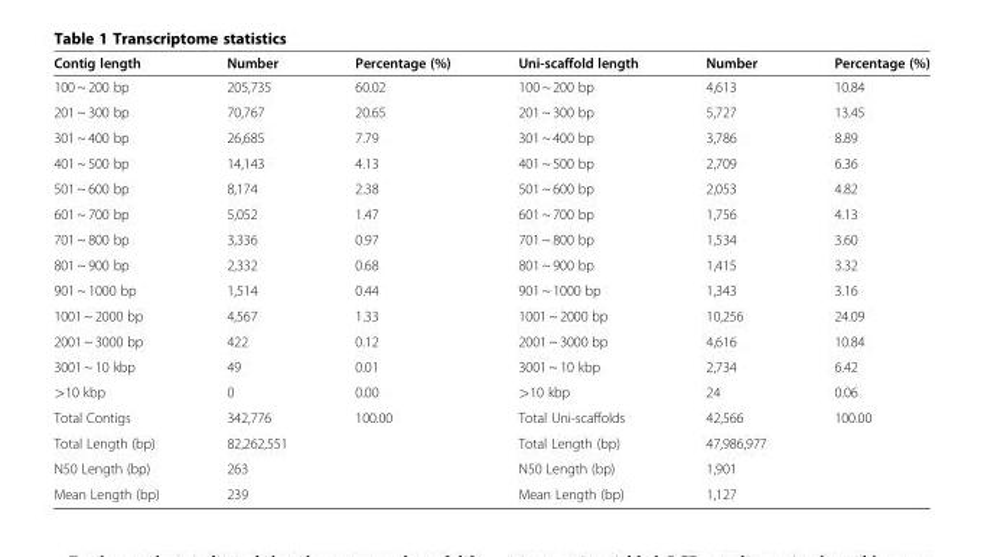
<table><thead><tr><td>Contig length</td><td>Number</td><td>Percentage (%)</td><td>Uni-scaffold length</td><td>Number</td><td>Percentage (%)</td></tr></thead><tbody><tr><td>100 ~ 200 bp</td><td>205,735</td><td>60.02</td><td>100 ~ 200 bp</td><td>4,613</td><td>10.84</td></tr><tr><td>201 ~ 300 bp</td><td>70,767</td><td>20.65</td><td>201 ~ 300 bp</td><td>5,727</td><td>13.45</td></tr><tr><td>301 ~ 400 bp</td><td>26,685</td><td>7.79</td><td>301 ~ 400 bp</td><td>3,786</td><td>8.89</td></tr><tr><td>401 ~ 500 bp</td><td>14,143</td><td>4.13</td><td>401 ~ 500 bp</td><td>2,709</td><td>6.36</td></tr><tr><td>501 ~ 600 bp</td><td>8,174</td><td>2.38</td><td>501 ~ 600 bp</td><td>2,053</td><td>4.82</td></tr><tr><td>601 ~ 700 bp</td><td>5,052</td><td>1.47</td><td>601 ~ 700 bp</td><td>1,756</td><td>4.13</td></tr><tr><td>701 ~ 800 bp</td><td>3,336</td><td>0.97</td><td>701 ~ 800 bp</td><td>1,534</td><td>3.60</td></tr><tr><td>801 ~ 900 bp</td><td>2,332</td><td>0.68</td><td>801 ~ 900 bp</td><td>1,415</td><td>3.32</td></tr><tr><td>901 ~ 1000 bp</td><td>1,514</td><td>0.44</td><td>901 ~ 1000 bp</td><td>1,343</td><td>3.16</td></tr><tr><td>1001 ~ 2000 bp</td><td>4,567</td><td>1.33</td><td>1001 ~ 2000 bp</td><td>10,256</td><td>24.09</td></tr><tr><td>2001 ~ 3000 bp</td><td>422</td><td>0.12</td><td>2001 ~ 3000 bp</td><td>4,616</td><td>10.84</td></tr><tr><td>3001 ~ 10 kbp</td><td>49</td><td>0.01</td><td>3001 ~ 10 kbp</td><td>2,734</td><td>6.42</td></tr><tr><td>&gt;10 kbp</td><td>0</td><td>0.00</td><td>&gt;10 kbp</td><td>24</td><td>0.06</td></tr><tr><td>Total Contigs</td><td>342,776</td><td>100.00</td><td>Total Uni-scaffolds</td><td>42,566</td><td>100.00</td></tr><tr><td>Total Length (bp)</td><td>82,262,551</td><td></td><td>Total Length (bp)</td><td>47,986,977</td><td></td></tr><tr><td>N50 Length (bp)</td><td>263</td><td></td><td>N50 Length (bp)</td><td>1,901</td><td></td></tr><tr><td>Mean Length (bp)</td><td>239</td><td></td><td>Mean Length (bp)</td><td>1,127</td><td></td></tr></tbody></table>